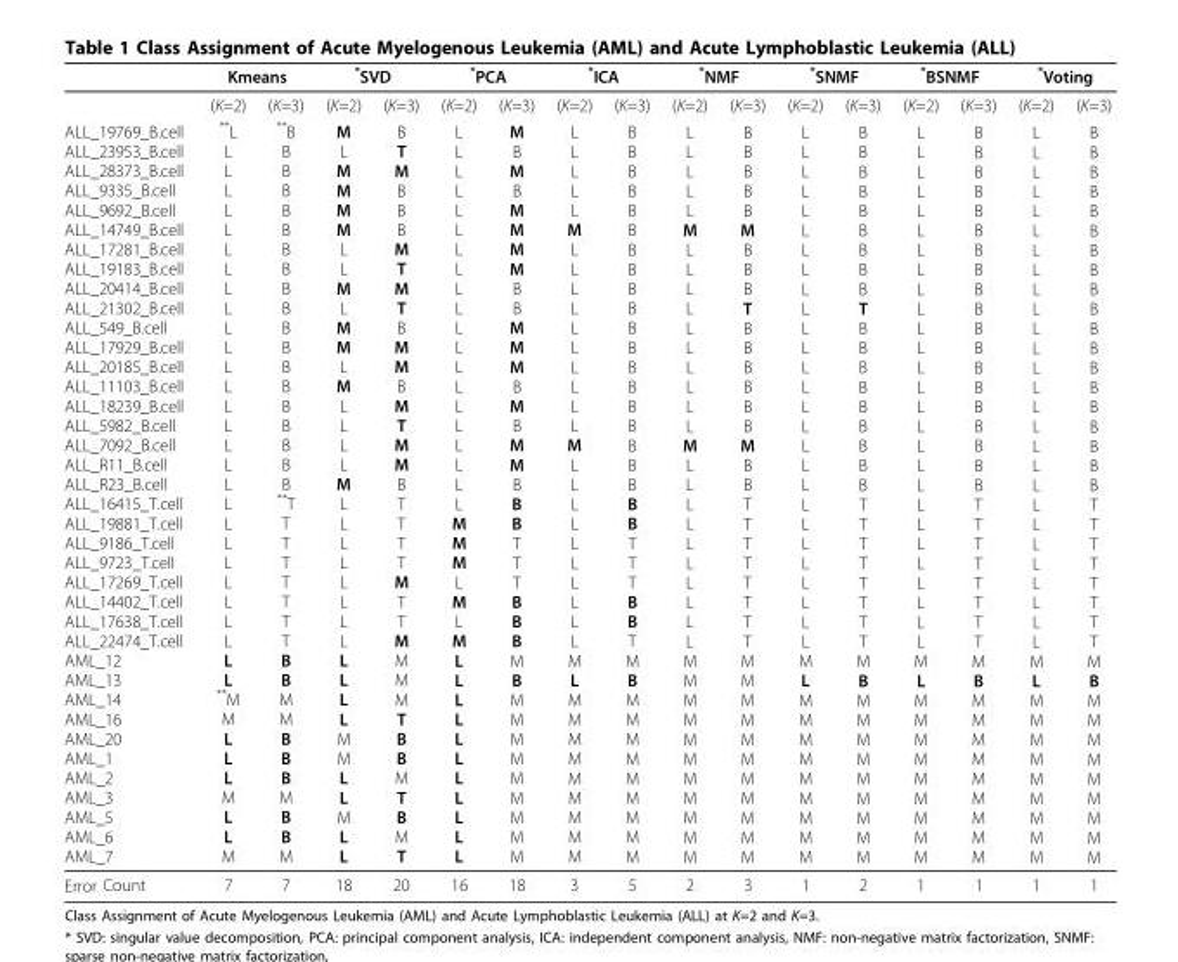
<table><thead><tr><td rowspan="2"></td><td colspan="2">Kmeans</td><td colspan="2">*SVD</td><td colspan="2">*PCA</td><td colspan="2">*ICA</td><td colspan="2">*NMF</td><td colspan="2">*SNMF</td><td colspan="2">*BSNMF</td><td colspan="2">*Voting</td></tr><tr><td>(K=2)</td><td>(K=3)</td><td>(K=2)</td><td>(K=3)</td><td>(K=2)</td><td>(K=3)</td><td>(K=2)</td><td>(K=3)</td><td>(K=2)</td><td>(K=3)</td><td>(K=2)</td><td>(K=3)</td><td>(K=2)</td><td>(K=3)</td><td>(K=2)</td><td>(K=3)</td></tr></thead><tbody><tr><td>ALL_19769_B.cell ALL_23953_B.cell ALL_28373_B.cell ALL_9335_B.cell ALL_9692_B.cell ALL_14749_B.cell ALL_17281_B.cell ALL_19183_B.cell ALL_20414_B.cell ALL_21302_B.cell ALL_549_B.cell ALL_17929_B.cell ALL_20185_B.cell ALL_11103_B.cell ALL_18239_B.cell ALL_5982_B.cell ALL_7092_B.cell ALL_R11_B.cell ALL_R23_B.cell ALL_16415_T.cell ALL_19881_T.cell ALL_9186_T.cell ALL_9723_T.cell ALL_17269_T.cell ALL_14402_T.cell ALL_17638_T.cell ALL_22474_T.cell AML_12 AML_13 AML_14 AML_16 AML_20 AML_1 AML_2 AML_3 AML_5 AML_6 AML_7</td><td>**L L L L L L L L L L L L L L L L L L L L L L L L L L L L L **M M L L L M L L M</td><td>**B B B B B B B B B B B B B B B B B B B **T T T T T T T T B B M M B B B M B B M</td><td>M L M M M M L L M L M M L M L L L L M L L L L L L L L L L L L M M L L M L L</td><td>B T M B B B M T M T B M M B M T M M B T T T T M T T M M M M T B B M T B M T</td><td>L L L L L L L L L L L L L L L L L L L L M M M L M L M L L L L L L L L L L L</td><td>M B M B M M M M B B M M M B M B M M B B B T T T B B B M B M M M M M M M M M</td><td>L L L L L M L L L L L L L L L L M L L L L L L L L L L M L M M M M M M M M M</td><td>B B B B B B B B B B B B B B B B B B B B B T T T B B T M B M M M M M M M M M</td><td>L L L L L M L L L L L L L L L L M L L L L L L L L L L M M M M M M M M M M M</td><td>B B B B B M B B B T B B B B B B M B B T T T T T T T T M M M M M M M M M M M</td><td>L L L L L L L L L L L L L L L L L L L L L L L L L L L M L M M M M M M M M M</td><td>B B B B B B B B B T B B B B B B B B B T T T T T T T T M B M M M M M M M M M</td><td>L L L L L L L L L L L L L L L L L L L L L L L L L L L M L M M M M M M M M M</td><td>B B B B B B B B B B B B B B B B B B B T T T T T T T T M B M M M M M M M M M</td><td>L L L L L L L L L L L L L L L L L L L L L L L L L L L M L M M M M M M M M M</td><td>B B B B B B B B B B B B B B B B B B B T T T T T T T T M B M M M M M M M M M</td></tr><tr><td>Error Count</td><td>7</td><td>7</td><td>18</td><td>20</td><td>16</td><td>18</td><td>3</td><td>5</td><td>2</td><td>3</td><td>1</td><td>2</td><td>1</td><td>1</td><td>1</td><td>1</td></tr></tbody></table>